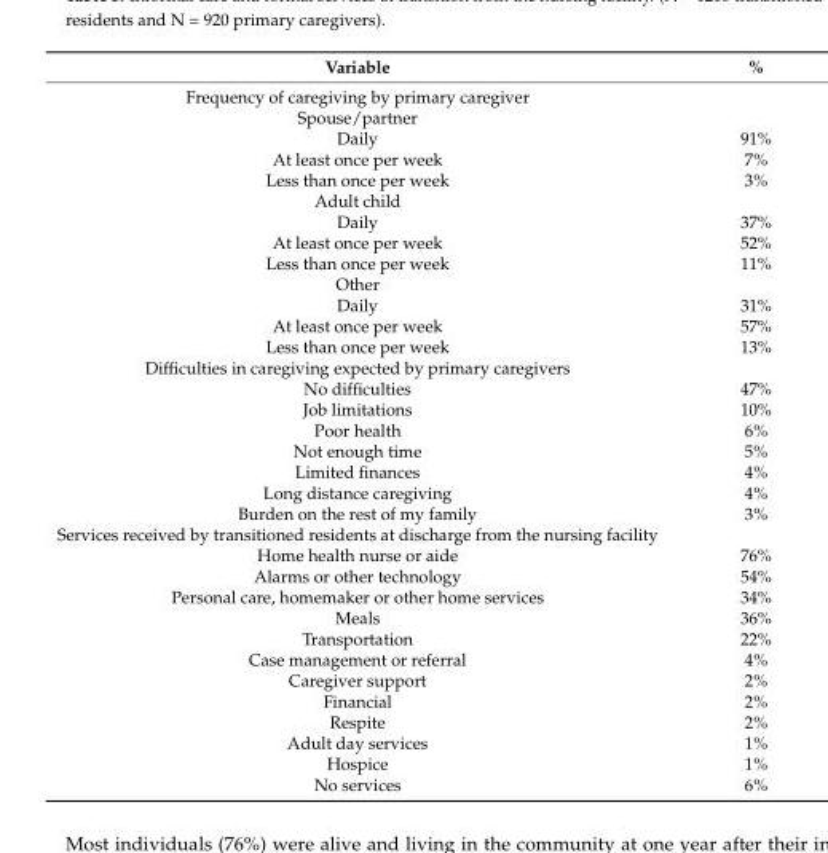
<table><thead><tr><td>Variable</td><td>%</td></tr></thead><tbody><tr><td colspan="2">Frequency of caregiving by primary caregiver</td></tr><tr><td colspan="2">Spouse/partner</td></tr><tr><td>Daily</td><td>91%</td></tr><tr><td>At least once per week</td><td>7%</td></tr><tr><td>Less than once per week</td><td>3%</td></tr><tr><td colspan="2">Adult child</td></tr><tr><td>Daily</td><td>37%</td></tr><tr><td>At least once per week</td><td>52%</td></tr><tr><td>Less than once per week</td><td>11%</td></tr><tr><td colspan="2">Other</td></tr><tr><td>Daily</td><td>31%</td></tr><tr><td>At least once per week</td><td>57%</td></tr><tr><td>Less than once per week</td><td>13%</td></tr><tr><td colspan="2">Difficulties in caregiving expected by primary caregivers</td></tr><tr><td>No difficulties</td><td>47%</td></tr><tr><td>Job limitations</td><td>10%</td></tr><tr><td>Poor health</td><td>6%</td></tr><tr><td>Not enough time</td><td>5%</td></tr><tr><td>Limited finances</td><td>4%</td></tr><tr><td>Long distance caregiving</td><td>4%</td></tr><tr><td>Burden on the rest of my family</td><td>3%</td></tr><tr><td colspan="2">Services received by transitioned residents at discharge from the nursing facility</td></tr><tr><td>Home health nurse or aide</td><td>76%</td></tr><tr><td>Alarms or other technology</td><td>54%</td></tr><tr><td>Personal care, homemaker or other home services</td><td>34%</td></tr><tr><td>Meals</td><td>36%</td></tr><tr><td>Transportation</td><td>22%</td></tr><tr><td>Case management or referral</td><td>4%</td></tr><tr><td>Caregiver support</td><td>2%</td></tr><tr><td>Financial</td><td>2%</td></tr><tr><td>Respite</td><td>2%</td></tr><tr><td>Adult day services</td><td>1%</td></tr><tr><td>Hospice</td><td>1%</td></tr><tr><td>No services</td><td>6%</td></tr></tbody></table>